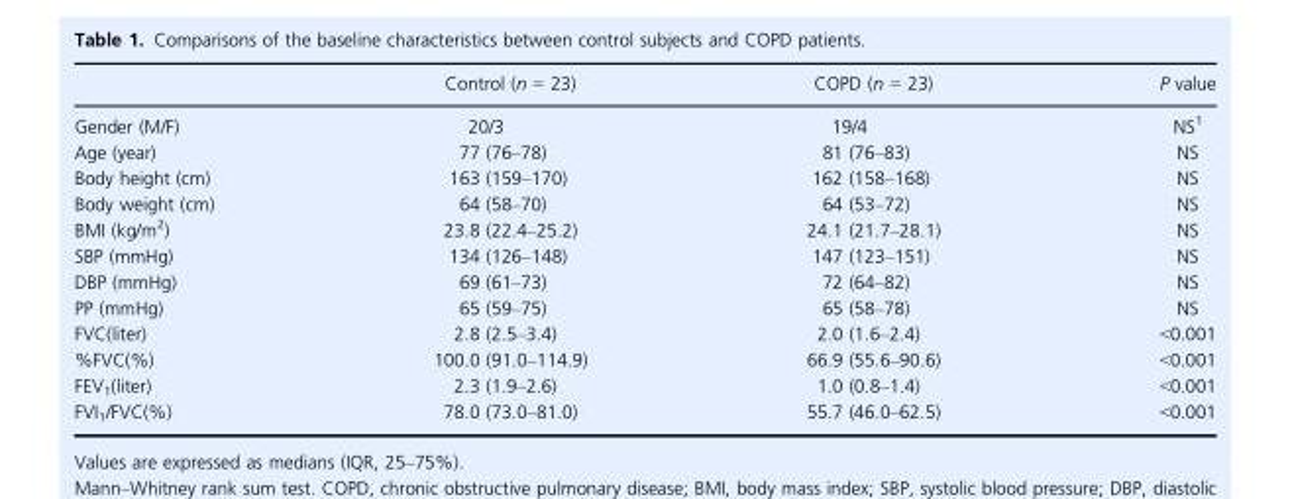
<table><thead><tr><td></td><td>Control (n = 23)</td><td>COPD (n = 23)</td><td>P value</td></tr></thead><tbody><tr><td>Gender (M/F)</td><td>20/3</td><td>19/4</td><td>NS1</td></tr><tr><td>Age (year)</td><td>77 (76–78)</td><td>81 (76–83)</td><td>NS</td></tr><tr><td>Body height (cm)</td><td>163 (159–170)</td><td>162 (158–168)</td><td>NS</td></tr><tr><td>Body weight (cm)</td><td>64 (58–70)</td><td>64 (53–72)</td><td>NS</td></tr><tr><td>BMI (kg/m<sup>2</sup>)</td><td>23.8 (22.4–25.2)</td><td>24.1 (21.7–28.1)</td><td>NS</td></tr><tr><td>SBP (mmHg)</td><td>134 (126–148)</td><td>147 (123–151)</td><td>NS</td></tr><tr><td>DBP (mmHg)</td><td>69 (61–73)</td><td>72 (64–82)</td><td>NS</td></tr><tr><td>PP (mmHg)</td><td>65 (59–75)</td><td>65 (58–78)</td><td>NS</td></tr><tr><td>FVC(liter)</td><td>2.8 (2.5–3.4)</td><td>2.0 (1.6–2.4)</td><td>&lt;0.001</td></tr><tr><td>%FVC(%)</td><td>100.0 (91.0–114.9)</td><td>66.9 (55.6–90.6)</td><td>&lt;0.001</td></tr><tr><td>FEV<sub>1</sub>(liter)</td><td>2.3 (1.9–2.6)</td><td>1.0 (0.8–1.4)</td><td>&lt;0.001</td></tr><tr><td>FVI<sub>1</sub>/FVC(%)</td><td>78.0 (73.0–81.0)</td><td>55.7 (46.0–62.5)</td><td>&lt;0.001</td></tr></tbody></table>